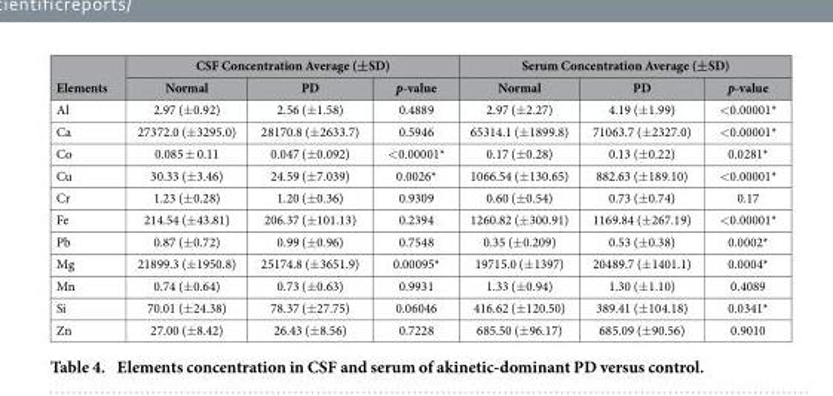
<table><thead><tr><td rowspan="2">Elements</td><td colspan="3">CSF Concentration Average (±SD)</td><td colspan="3">Serum Concentration Average (±SD)</td></tr><tr><td>Normal</td><td>PD</td><td>p-value</td><td>Normal</td><td>PD</td><td>p-value</td></tr></thead><tbody><tr><td>Al</td><td>2.97 (± 0.92)</td><td>2.56 (± 1.58)</td><td>0.4889</td><td>2.97 (± 2.27)</td><td>4.19 (± 1.99)</td><td>&lt; 0.00001*</td></tr><tr><td>Ca</td><td>27372.0 (± 3295.0)</td><td>28170.8 (± 2633.7)</td><td>0.5946</td><td>65314.1 (± 1899.8)</td><td>71063.7 (± 2327.0)</td><td>&lt; 0.00001*</td></tr><tr><td>Co</td><td>0.085 ± 0.11</td><td>0.047 (± 0.092)</td><td>&lt; 0.00001*</td><td>0.17 (± 0.28)</td><td>0.13 (± 0.22)</td><td>0.0281*</td></tr><tr><td>Cu</td><td>30.33 (± 3.46)</td><td>24.59 (± 7.039)</td><td>0.0026*</td><td>1066.54 (± 130.65)</td><td>882.63 (± 189.10)</td><td>&lt; 0.00001*</td></tr><tr><td>Cr</td><td>1.23 (± 0.28)</td><td>1.20 (± 0.36)</td><td>0.9309</td><td>0.60 (± 0.54)</td><td>0.73 (± 0.74)</td><td>0.17</td></tr><tr><td>Fe</td><td>214.54 (± 43.81)</td><td>206.37 (± 101.13)</td><td>0.2394</td><td>1260.82 (± 300.91)</td><td>1169.84 (± 267.19)</td><td>&lt; 0.00001*</td></tr><tr><td>Pb</td><td>0.87 (± 0.72)</td><td>0.99 (± 0.96)</td><td>0.7548</td><td>0.35 (± 0.209)</td><td>0.53 (± 0.38)</td><td>0.0002*</td></tr><tr><td>Mg</td><td>21899.3 (± 1950.8)</td><td>25174.8 (± 3651.9)</td><td>0.00095*</td><td>19715.0 (± 1397)</td><td>20489.7 (± 1401.1)</td><td>0.0004*</td></tr><tr><td>Mn</td><td>0.74 (± 0.64)</td><td>0.73 (± 0.63)</td><td>0.9931</td><td>1.33 (± 0.94)</td><td>1.30 (± 1.10)</td><td>0.4089</td></tr><tr><td>Si</td><td>70.01 (± 24.38)</td><td>78.37 (± 27.75)</td><td>0.06046</td><td>416.62 (± 120.50)</td><td>389.41 (± 104.18)</td><td>0.0341*</td></tr><tr><td>Zn</td><td>27.00 (± 8.42)</td><td>26.43 (± 8.56)</td><td>0.7228</td><td>685.50 (± 96.17)</td><td>685.09 (± 90.56)</td><td>0.9010</td></tr></tbody></table>